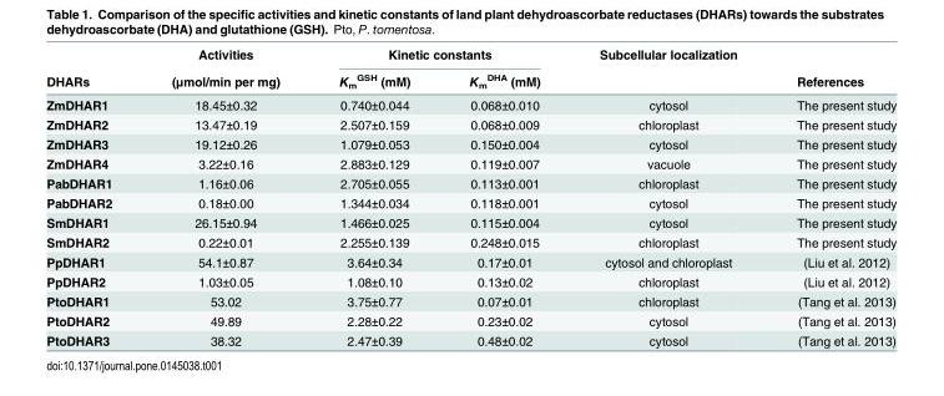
<table><thead><tr><td rowspan="2">DHARs</td><td rowspan="2">Activities (μmol/min per mg)</td><td colspan="2">Kinetic constants</td><td rowspan="2">Subcellular localization</td><td rowspan="2">References</td></tr><tr><td>K<sub>m</sub> <sup>GSH</sup> (mM)</td><td>K<sub>m</sub> <sup>DHA</sup> (mM)</td></tr></thead><tbody><tr><td>ZmDHAR1</td><td>18.45±0.32</td><td>0.740±0.044</td><td>0.068±0.010</td><td>cytosol</td><td>The present study</td></tr><tr><td>ZmDHAR2</td><td>13.47±0.19</td><td>2.507±0.159</td><td>0.068±0.009</td><td>chloroplast</td><td>The present study</td></tr><tr><td>ZmDHAR3</td><td>19.12±0.26</td><td>1.079±0.053</td><td>0.150±0.004</td><td>cytosol</td><td>The present study</td></tr><tr><td>ZmDHAR4</td><td>3.22±0.16</td><td>2.883±0.129</td><td>0.119±0.007</td><td>vacuole</td><td>The present study</td></tr><tr><td>PabDHAR1</td><td>1.16±0.06</td><td>2.705±0.055</td><td>0.113±0.001</td><td>chloroplast</td><td>The present study</td></tr><tr><td>PabDHAR2</td><td>0.18±0.00</td><td>1.344±0.034</td><td>0.118±0.001</td><td>cytosol</td><td>The present study</td></tr><tr><td>SmDHAR1</td><td>26.15±0.94</td><td>1.466±0.025</td><td>0.115±0.004</td><td>cytosol</td><td>The present study</td></tr><tr><td>SmDHAR2</td><td>0.22±0.01</td><td>2.255±0.139</td><td>0.248±0.015</td><td>chloroplast</td><td>The present study</td></tr><tr><td>PpDHAR1</td><td>54.1±0.87</td><td>3.64±0.34</td><td>0.17±0.01</td><td>cytosol and chloroplast</td><td>(Liu et al. 2012)</td></tr><tr><td>PpDHAR2</td><td>1.03±0.05</td><td>1.08±0.10</td><td>0.13±0.02</td><td>chloroplast</td><td>(Liu et al. 2012)</td></tr><tr><td>PtoDHAR1</td><td>53.02</td><td>3.75±0.77</td><td>0.07±0.01</td><td>chloroplast</td><td>(Tang et al. 2013)</td></tr><tr><td>PtoDHAR2</td><td>49.89</td><td>2.28±0.22</td><td>0.23±0.02</td><td>cytosol</td><td>(Tang et al. 2013)</td></tr><tr><td>PtoDHAR3</td><td>38.32</td><td>2.47±0.39</td><td>0.48±0.02</td><td>cytosol</td><td>(Tang et al. 2013)</td></tr></tbody></table>